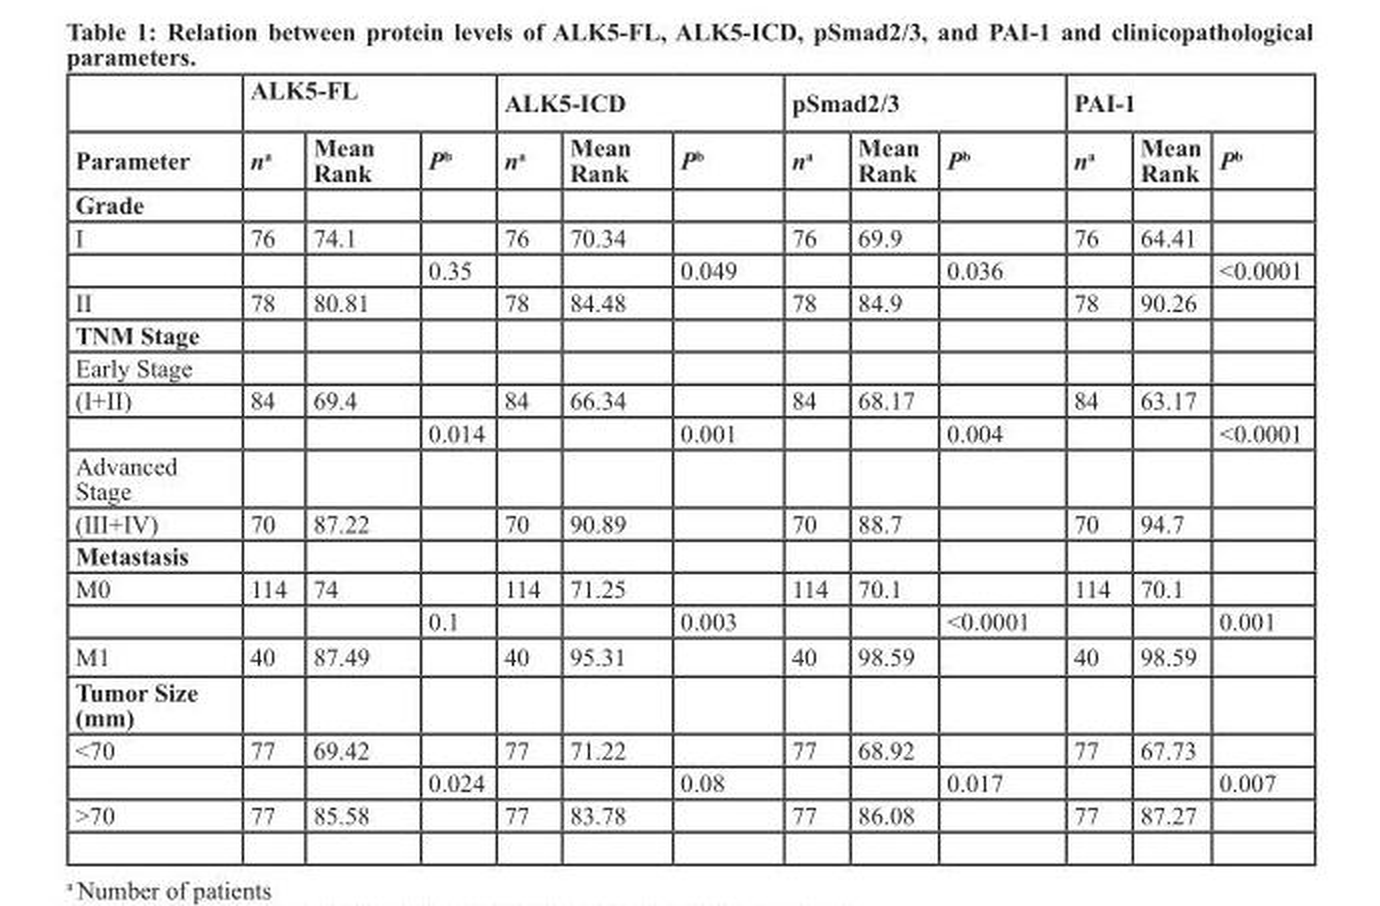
<table><thead><tr><td rowspan="2">Parameter</td><td colspan="3">ALK5-FL</td><td colspan="3">ALK5-IcD</td><td colspan="3">psmad2/3</td><td colspan="3">PAI-1</td></tr><tr><td>n<sup>a</sup></td><td>Mean rank</td><td>P<sup>b</sup></td><td>n<sup>a</sup></td><td>Mean rank</td><td>P<sup>b</sup></td><td>n<sup>a</sup></td><td>Mean rank</td><td>P<sup>b</sup></td><td>n<sup>a</sup></td><td>Mean rank</td><td>P<sup>b</sup></td></tr></thead><tbody><tr><td colspan="13">Grade</td></tr><tr><td rowspan="2">I</td><td>76</td><td>74.1</td><td></td><td>76</td><td>70.34</td><td></td><td>76</td><td>69.9</td><td></td><td>76</td><td>64.41</td><td></td></tr><tr><td></td><td></td><td>0.35</td><td></td><td></td><td>0.049</td><td></td><td></td><td>0.036</td><td></td><td></td><td>&lt;0.0001</td></tr><tr><td>II</td><td>78</td><td>80.81</td><td></td><td>78</td><td>84.48</td><td></td><td>78</td><td>84.9</td><td></td><td>78</td><td>90.26</td><td></td></tr><tr><td colspan="13">tNM stage</td></tr><tr><td colspan="13">Early Stage</td></tr><tr><td rowspan="2">(I+II)</td><td>84</td><td>69.4</td><td></td><td>84</td><td>66.34</td><td></td><td>84</td><td>68.17</td><td></td><td>84</td><td>63.17</td><td></td></tr><tr><td></td><td></td><td>0.014</td><td></td><td></td><td>0.001</td><td></td><td></td><td>0.004</td><td></td><td></td><td>&lt;0.0001</td></tr><tr><td colspan="13">Advanced Stage</td></tr><tr><td>(III+IV)</td><td>70</td><td>87.22</td><td></td><td>70</td><td>90.89</td><td></td><td>70</td><td>88.7</td><td></td><td>70</td><td>94.7</td><td></td></tr><tr><td colspan="13">Metastasis</td></tr><tr><td rowspan="2">M0</td><td>114</td><td>74</td><td></td><td>114</td><td>71.25</td><td></td><td>114</td><td>70.1</td><td></td><td>114</td><td>70.1</td><td></td></tr><tr><td></td><td></td><td>0.1</td><td></td><td></td><td>0.003</td><td></td><td></td><td>&lt;0.0001</td><td></td><td></td><td>0.001</td></tr><tr><td>M1</td><td>40</td><td>87.49</td><td></td><td>40</td><td>95.31</td><td></td><td>40</td><td>98.59</td><td></td><td>40</td><td>98.59</td><td></td></tr><tr><td colspan="13">tumor size (mm)</td></tr><tr><td rowspan="2">&lt;70</td><td>77</td><td>69.42</td><td></td><td>77</td><td>71.22</td><td></td><td>77</td><td>68.92</td><td></td><td>77</td><td>67.73</td><td></td></tr><tr><td></td><td></td><td>0.024</td><td></td><td></td><td>0.08</td><td></td><td></td><td>0.017</td><td></td><td></td><td>0.007</td></tr><tr><td>&gt;70</td><td>77</td><td>85.58</td><td></td><td>77</td><td>83.78</td><td></td><td>77</td><td>86.08</td><td></td><td>77</td><td>87.27</td><td></td></tr></tbody></table>